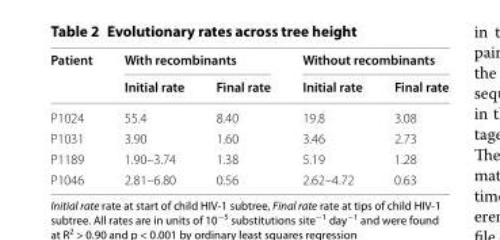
<table><thead><tr><td rowspan="2">Patient</td><td colspan="2">With recombinants</td><td colspan="2">Without recombinants</td></tr><tr><td>Initial rate</td><td>Final rate</td><td>Initial rate</td><td>Final rate</td></tr></thead><tbody><tr><td>P1024</td><td>55.4</td><td>8.40</td><td>19.8</td><td>3.08</td></tr><tr><td>P1031</td><td>3.90</td><td>1.60</td><td>3.46</td><td>2.73</td></tr><tr><td>P1189</td><td>1.90–3.74</td><td>1.38</td><td>5.19</td><td>1.28</td></tr><tr><td>P1046</td><td>2.81–6.80</td><td>0.56</td><td>2.62–4.72</td><td>0.63</td></tr></tbody></table>